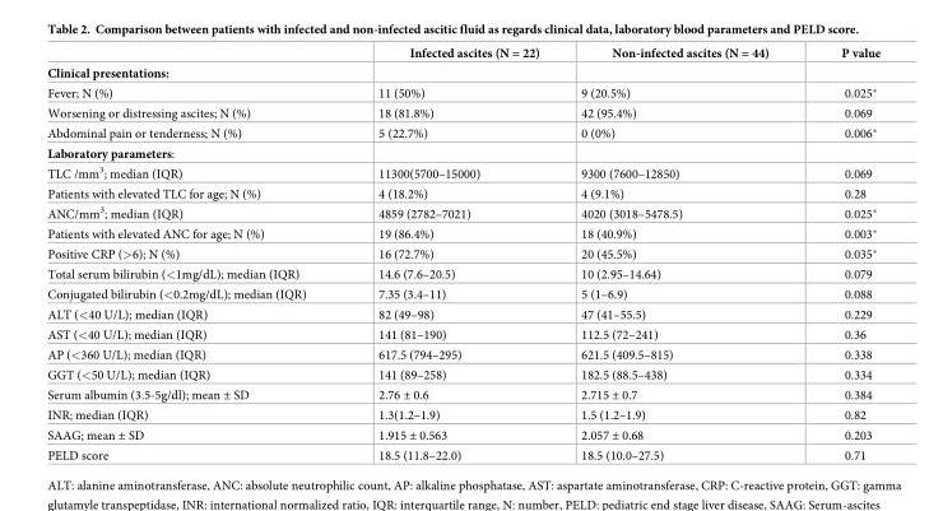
<table><thead><tr><td></td><td>Infected ascites (N = 22)</td><td>Non-infected ascites (N = 44)</td><td>P value</td></tr></thead><tbody><tr><td colspan="4">Clinical presentations:</td></tr><tr><td>Fever; N (%)</td><td>11 (50%)</td><td>9 (20.5%)</td><td>0.025*</td></tr><tr><td>Worsening or distressing ascites; N (%)</td><td>18 (81.8%)</td><td>42 (95.4%)</td><td>0.069</td></tr><tr><td>Abdominal pain or tenderness; N (%)</td><td>5 (22.7%)</td><td>0 (0%)</td><td>0.006*</td></tr><tr><td colspan="4">Laboratory parameters:</td></tr><tr><td>TLC /mm<sup>3</sup>; median (IQR)</td><td>11300(5700–15000)</td><td>9300 (7600–12850)</td><td>0.069</td></tr><tr><td>Patients with elevated TLC for age; N (%)</td><td>4 (18.2%)</td><td>4 (9.1%)</td><td>0.28</td></tr><tr><td>ANC/mm<sup>3</sup>; median (IQR)</td><td>4859 (2782–7021)</td><td>4020 (3018–5478.5)</td><td>0.025*</td></tr><tr><td>Patients with elevated ANC for age; N (%)</td><td>19 (86.4%)</td><td>18 (40.9%)</td><td>0.003*</td></tr><tr><td>Positive CRP (&gt;6); N (%)</td><td>16 (72.7%)</td><td>20 (45.5%)</td><td>0.035*</td></tr><tr><td>Total serum bilirubin (&lt;1mg/dL); median (IQR)</td><td>14.6 (7.6–20.5)</td><td>10 (2.95–14.64)</td><td>0.079</td></tr><tr><td>Conjugated bilirubin (&lt;0.2mg/dL); median (IQR)</td><td>7.35 (3.4–11)</td><td>5 (1–6.9)</td><td>0.088</td></tr><tr><td>ALT (&lt;40 U/L); median (IQR)</td><td>82 (49–98)</td><td>47 (41–55.5)</td><td>0.229</td></tr><tr><td>AST (&lt;40 U/L); median (IQR)</td><td>141 (81–190)</td><td>112.5 (72–241)</td><td>0.36</td></tr><tr><td>AP (&lt;360 U/L); median (IQR)</td><td>617.5 (794–295)</td><td>621.5 (409.5–815)</td><td>0.338</td></tr><tr><td>GGT (&lt;50 U/L); median (IQR)</td><td>141 (89–258)</td><td>182.5 (88.5–438)</td><td>0.334</td></tr><tr><td>Serum albumin (3.5-5g/dl); mean ± SD</td><td>2.76 ± 0.6</td><td>2.715 ± 0.7</td><td>0.384</td></tr><tr><td>INR; median (IQR)</td><td>1.3(1.2–1.9)</td><td>1.5 (1.2–1.9)</td><td>0.82</td></tr><tr><td>SAAG; mean ± SD</td><td>1.915 ± 0.563</td><td>2.057 ± 0.68</td><td>0.203</td></tr><tr><td>PELD score</td><td>18.5 (11.8–22.0)</td><td>18.5 (10.0–27.5)</td><td>0.71</td></tr></tbody></table>